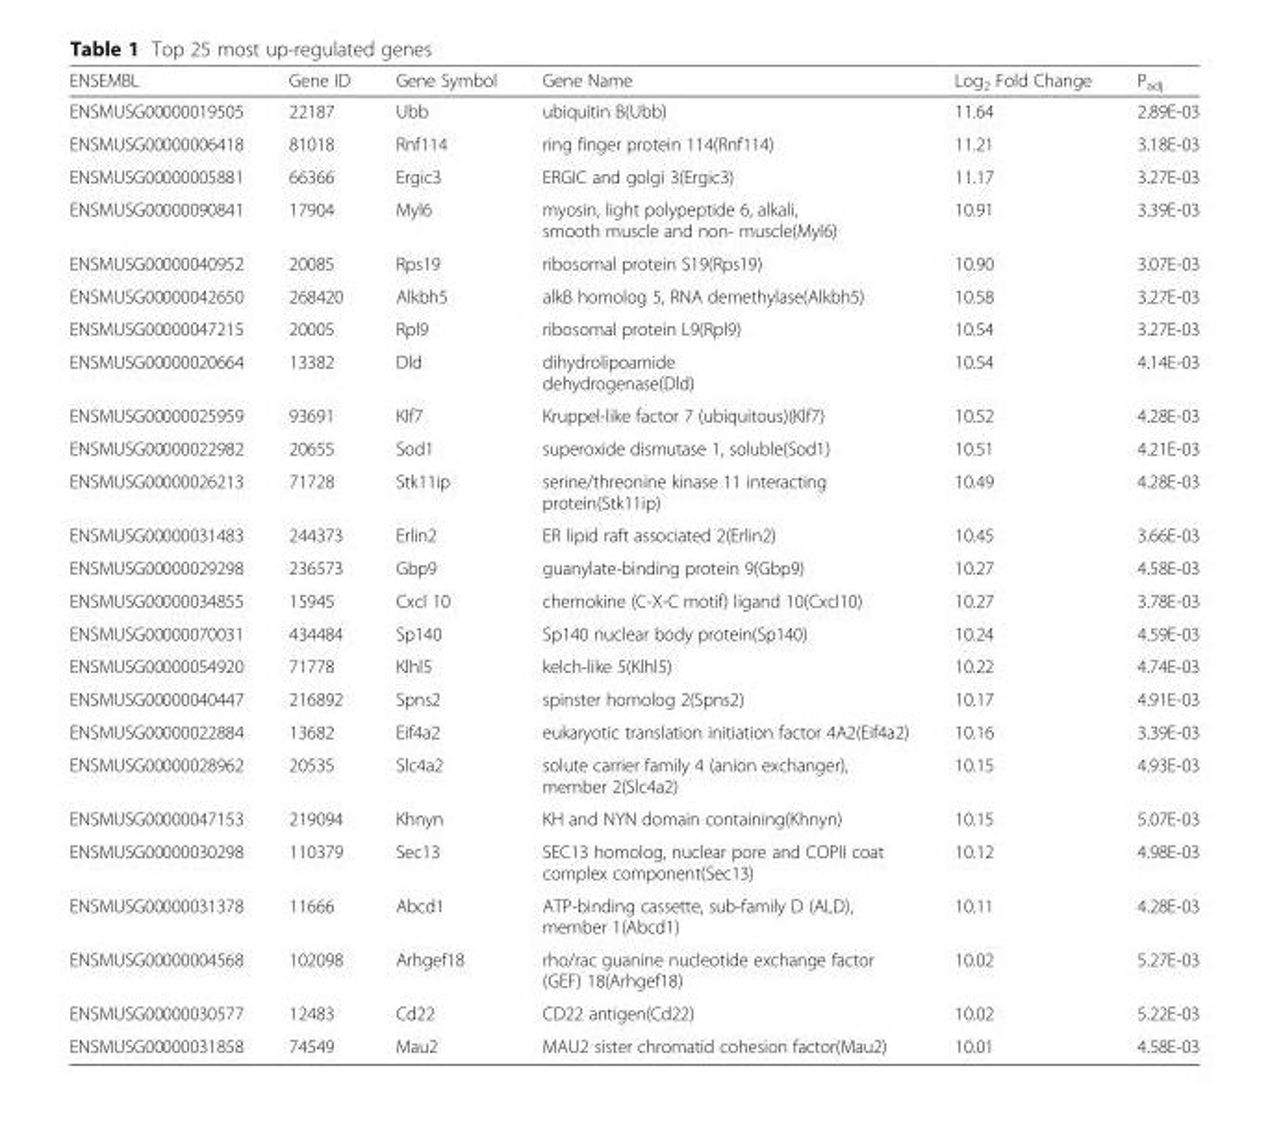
<table><thead><tr><td>ENSEMBL</td><td>Gene ID</td><td>Gene Symbol</td><td>Gene Name</td><td>Log<sub>2</sub> Fold Change</td><td>P<sub>adj</sub></td></tr></thead><tbody><tr><td>ENSMUSG00000019505</td><td>22187</td><td>Ubb</td><td>ubiquitin B(Ubb)</td><td>11.64</td><td>2.89E-03</td></tr><tr><td>ENSMUSG00000006418</td><td>81018</td><td>Rnf114</td><td>ring finger protein 114(Rnf114)</td><td>11.21</td><td>3.18E-03</td></tr><tr><td>ENSMUSG00000005881</td><td>66366</td><td>Ergic3</td><td>ERGIC and golgi 3(Ergic3)</td><td>11.17</td><td>3.27E-03</td></tr><tr><td>ENSMUSG00000090841</td><td>17904</td><td>Myl6</td><td>myosin, light polypeptide 6, alkali, smooth muscle and non- muscle(Myl6)</td><td>10.91</td><td>3.39E-03</td></tr><tr><td>ENSMUSG00000040952</td><td>20085</td><td>Rps19</td><td>ribosomal protein S19(Rps19)</td><td>10.90</td><td>3.07E-03</td></tr><tr><td>ENSMUSG00000042650</td><td>268420</td><td>Alkbh5</td><td>alkB homolog 5, RNA demethylase(Alkbh5)</td><td>10.58</td><td>3.27E-03</td></tr><tr><td>ENSMUSG00000047215</td><td>20005</td><td>Rpl9</td><td>ribosomal protein L9(Rpl9)</td><td>10.54</td><td>3.27E-03</td></tr><tr><td>ENSMUSG00000020664</td><td>13382</td><td>Dld</td><td>dihydrolipoamide dehydrogenase(Dld)</td><td>10.54</td><td>4.14E-03</td></tr><tr><td>ENSMUSG00000025959</td><td>93691</td><td>Klf7</td><td>Kruppel-like factor 7 (ubiquitous)(Klf7)</td><td>10.52</td><td>4.28E-03</td></tr><tr><td>ENSMUSG00000022982</td><td>20655</td><td>Sod1</td><td>superoxide dismutase 1, soluble(Sod1)</td><td>10.51</td><td>4.21E-03</td></tr><tr><td>ENSMUSG00000026213</td><td>71728</td><td>Stk11ip</td><td>serine/threonine kinase 11 interacting protein(Stk11ip)</td><td>10.49</td><td>4.28E-03</td></tr><tr><td>ENSMUSG00000031483</td><td>244373</td><td>Erlin2</td><td>ER lipid raft associated 2(Erlin2)</td><td>10.45</td><td>3.66E-03</td></tr><tr><td>ENSMUSG00000029298</td><td>236573</td><td>Gbp9</td><td>guanylate-binding protein 9(Gbp9)</td><td>10.27</td><td>4.58E-03</td></tr><tr><td>ENSMUSG00000034855</td><td>15945</td><td>Cxcl 10</td><td>chemokine (C-X-C motif) ligand 10(Cxcl10)</td><td>10.27</td><td>3.78E-03</td></tr><tr><td>ENSMUSG00000070031</td><td>434484</td><td>Sp140</td><td>Sp140 nuclear body protein(Sp140)</td><td>10.24</td><td>4.59E-03</td></tr><tr><td>ENSMUSG00000054920</td><td>71778</td><td>Klhl5</td><td>kelch-like 5(Klhl5)</td><td>10.22</td><td>4.74E-03</td></tr><tr><td>ENSMUSG00000040447</td><td>216892</td><td>Spns2</td><td>spinster homolog 2(Spns2)</td><td>10.17</td><td>4.91E-03</td></tr><tr><td>ENSMUSG00000022884</td><td>13682</td><td>Eif4a2</td><td>eukaryotic translation initiation factor 4A2(Eif4a2)</td><td>10.16</td><td>3.39E-03</td></tr><tr><td>ENSMUSG00000028962</td><td>20535</td><td>Slc4a2</td><td>solute carrier family 4 (anion exchanger), member 2(Slc4a2)</td><td>10.15</td><td>4.93E-03</td></tr><tr><td>ENSMUSG00000047153</td><td>219094</td><td>Khnyn</td><td>KH and NYN domain containing(Khnyn)</td><td>10.15</td><td>5.07E-03</td></tr><tr><td>ENSMUSG00000030298</td><td>110379</td><td>Sec13</td><td>SEC13 homolog, nuclear pore and COPII coat complex component(Sec13)</td><td>10.12</td><td>4.98E-03</td></tr><tr><td>ENSMUSG00000031378</td><td>11666</td><td>Abcd1</td><td>ATP-binding cassette, sub-family D (ALD), member 1(Abcd1)</td><td>10.11</td><td>4.28E-03</td></tr><tr><td>ENSMUSG00000004568</td><td>102098</td><td>Arhgef18</td><td>rho/rac guanine nucleotide exchange factor (GEF) 18(Arhgef18)</td><td>10.02</td><td>5.27E-03</td></tr><tr><td>ENSMUSG00000030577</td><td>12483</td><td>Cd22</td><td>CD22 antigen(Cd22)</td><td>10.02</td><td>5.22E-03</td></tr><tr><td>ENSMUSG00000031858</td><td>74549</td><td>Mau2</td><td>MAU2 sister chromatid cohesion factor(Mau2)</td><td>10.01</td><td>4.58E-03</td></tr></tbody></table>